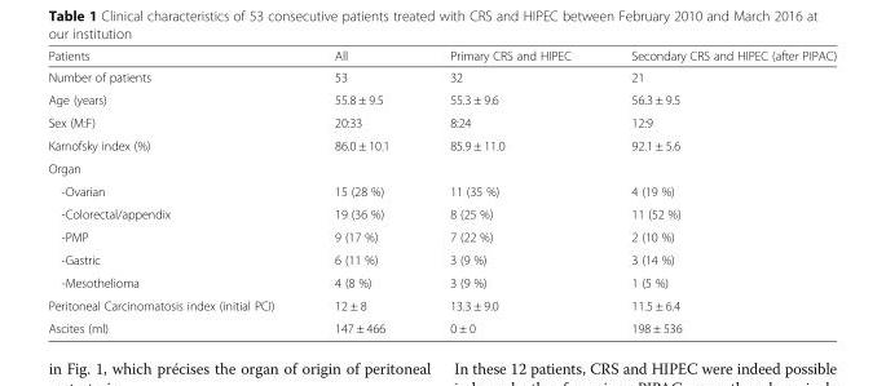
<table><thead><tr><td>Patients</td><td>All</td><td>Primary CRS and HIPEC</td><td>Secondary CRS and HIPEC (after PIPAC)</td></tr></thead><tbody><tr><td>Number of patients</td><td>53</td><td>32</td><td>21</td></tr><tr><td>Age (years)</td><td>55.8 ± 9.5</td><td>55.3 ± 9.6</td><td>56.3 ± 9.5</td></tr><tr><td>Sex (M:F)</td><td>20:33</td><td>8:24</td><td>12:9</td></tr><tr><td>Karnofsky index (%)</td><td>86.0 ± 10.1</td><td>85.9 ± 11.0</td><td>92.1 ± 5.6</td></tr><tr><td colspan="4">Organ</td></tr><tr><td>-Ovarian</td><td>15 (28 %)</td><td>11 (35 %)</td><td>4 (19 %)</td></tr><tr><td>-Colorectal/appendix</td><td>19 (36 %)</td><td>8 (25 %)</td><td>11 (52 %)</td></tr><tr><td>-PMP</td><td>9 (17 %)</td><td>7 (22 %)</td><td>2 (10 %)</td></tr><tr><td>-Gastric</td><td>6 (11 %)</td><td>3 (9 %)</td><td>3 (14 %)</td></tr><tr><td>-Mesothelioma</td><td>4 (8 %)</td><td>3 (9 %)</td><td>1 (5 %)</td></tr><tr><td>Peritoneal Carcinomatosis index (initial PCI)</td><td>12 ± 8</td><td>13.3 ± 9.0</td><td>11.5 ± 6.4</td></tr><tr><td>Ascites (ml)</td><td>147 ± 466</td><td>0 ± 0</td><td>198 ± 536</td></tr></tbody></table>